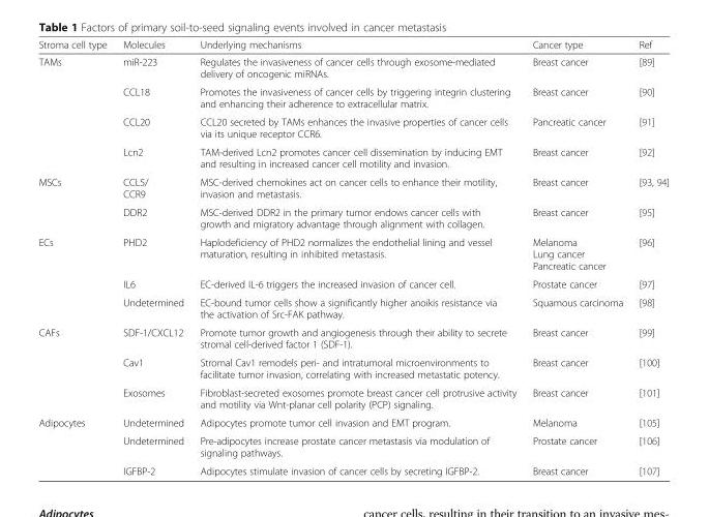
<table><thead><tr><td>Stroma cell type</td><td>Molecules</td><td>Underlying mechanisms</td><td>Cancer type</td><td>Ref</td></tr></thead><tbody><tr><td rowspan="4">TAMs</td><td>miR-223</td><td>Regulates the invasiveness of cancer cells through exosome-mediated delivery of oncogenic miRNAs.</td><td>Breast cancer</td><td>[89]</td></tr><tr><td>CCL18</td><td>Promotes the invasiveness of cancer cells by triggering integrin clustering and enhancing their adherence to extracellular matrix.</td><td>Breast cancer</td><td>[90]</td></tr><tr><td>CCL20</td><td>CCL20 secreted by TAMs enhances the invasive properties of cancer cells via its unique receptor CCR6.</td><td>Pancreatic cancer</td><td>[91]</td></tr><tr><td>Lcn2</td><td>TAM-derived Lcn2 promotes cancer cell dissemination by inducing EMT and resulting in increased cancer cell motility and invasion.</td><td>Breast cancer</td><td>[92]</td></tr><tr><td rowspan="2">MSCs</td><td>CCL5/ CCR9</td><td>MSC-derived chemokines act on cancer cells to enhance their motility, invasion and metastasis.</td><td>Breast cancer</td><td>[93, 94]</td></tr><tr><td>DDR2</td><td>MSC-derived DDR2 in the primary tumor endows cancer cells with growth and migratory advantage through alignment with collagen.</td><td>Breast cancer</td><td>[95]</td></tr><tr><td rowspan="3">ECs</td><td>PHD2</td><td>Haplodeficiency of PHD2 normalizes the endothelial lining and vessel maturation, resulting in inhibited metastasis.</td><td>Melanoma Lung cancer Pancreatic cancer</td><td>[96]</td></tr><tr><td>IL6</td><td>EC-derived IL-6 triggers the increased invasion of cancer cell.</td><td>Prostate cancer</td><td>[97]</td></tr><tr><td>Undetermined</td><td>EC-bound tumor cells show a significantly higher anoikis resistance via the activation of Src-FAK pathway.</td><td>Squamous carcinoma</td><td>[98]</td></tr><tr><td rowspan="3">CAFs</td><td>SDF-1/CXCL12</td><td>Promote tumor growth and angiogenesis through their ability to secrete stromal cell-derived factor 1 (SDF-1).</td><td>Breast cancer</td><td>[99]</td></tr><tr><td>Cav1</td><td>Stromal Cav1 remodels peri- and intratumoral microenvironments to facilitate tumor invasion, correlating with increased metastatic potency.</td><td>Breast cancer</td><td>[100]</td></tr><tr><td>Exosomes</td><td>Fibroblast-secreted exosomes promote breast cancer cell protrusive activity and motility via Wnt-planar cell polarity (PCP) signaling.</td><td>Breast cancer</td><td>[101]</td></tr><tr><td rowspan="3">Adipocytes</td><td>Undetermined</td><td>Adipocytes promote tumor cell invasion and EMT program.</td><td>Melanoma</td><td>[105]</td></tr><tr><td>Undetermined</td><td>Pre-adipocytes increase prostate cancer metastasis via modulation of signaling pathways.</td><td>Prostate cancer</td><td>[106]</td></tr><tr><td>IGFBP-2</td><td>Adipocytes stimulate invasion of cancer cells by secreting IGFBP-2.</td><td>Breast cancer</td><td>[107]</td></tr></tbody></table>